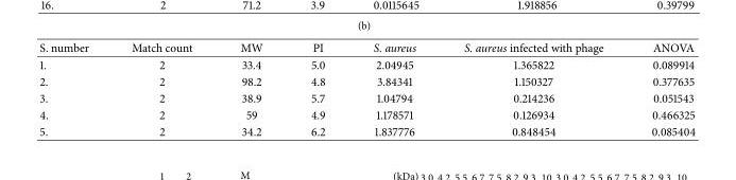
<table><thead><tr><td>S. number</td><td>Match count</td><td>MW</td><td>PI</td><td>S. aureus</td><td>S. aureus infected with phage</td><td>ANOVA</td></tr></thead><tbody><tr><td>1.</td><td>2</td><td>33.4</td><td>5.0</td><td>2.04945</td><td>1.365822</td><td>0.089914</td></tr><tr><td>2.</td><td>2</td><td>98.2</td><td>4.8</td><td>3.84341</td><td>1.150327</td><td>0.377635</td></tr><tr><td>3.</td><td>2</td><td>38.9</td><td>5.7</td><td>1.04794</td><td>0.214236</td><td>0.051543</td></tr><tr><td>4.</td><td>2</td><td>59</td><td>4.9</td><td>1.178571</td><td>0.126934</td><td>0.466325</td></tr><tr><td>5.</td><td>2</td><td>34.2</td><td>6.2</td><td>1.837776</td><td>0.848454</td><td>0.085404</td></tr></tbody></table>